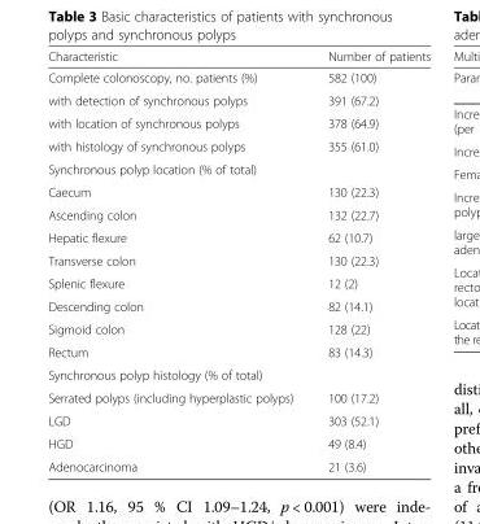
<table><thead><tr><td>Characteristic</td><td>Number of patients</td></tr></thead><tbody><tr><td>Complete colonoscopy, no. patients (%)</td><td>582 (100)</td></tr><tr><td>with detection of synchronous polyps</td><td>391 (67.2)</td></tr><tr><td>with location of synchronous polyps</td><td>378 (64.9)</td></tr><tr><td>with histology of synchronous polyps</td><td>355 (61.0)</td></tr><tr><td colspan="2">Synchronous polyp location (% of total)</td></tr><tr><td>Caecum</td><td>130 (22.3)</td></tr><tr><td>Ascending colon</td><td>132 (22.7)</td></tr><tr><td>Hepatic flexure</td><td>62 (10.7)</td></tr><tr><td>Transverse colon</td><td>130 (22.3)</td></tr><tr><td>Splenic flexure</td><td>12 (2)</td></tr><tr><td>Descending colon</td><td>82 (14.1)</td></tr><tr><td>Sigmoid colon</td><td>128 (22)</td></tr><tr><td>Rectum</td><td>83 (14.3)</td></tr><tr><td colspan="2">Synchronous polyp histology (% of total)</td></tr><tr><td>Serrated polyps (including hyperplastic polyps)</td><td>100 (17.2)</td></tr><tr><td>LGD</td><td>303 (52.1)</td></tr><tr><td>HGD</td><td>49 (8.4)</td></tr><tr><td>Adenocarcinoma</td><td>21 (3.6)</td></tr></tbody></table>